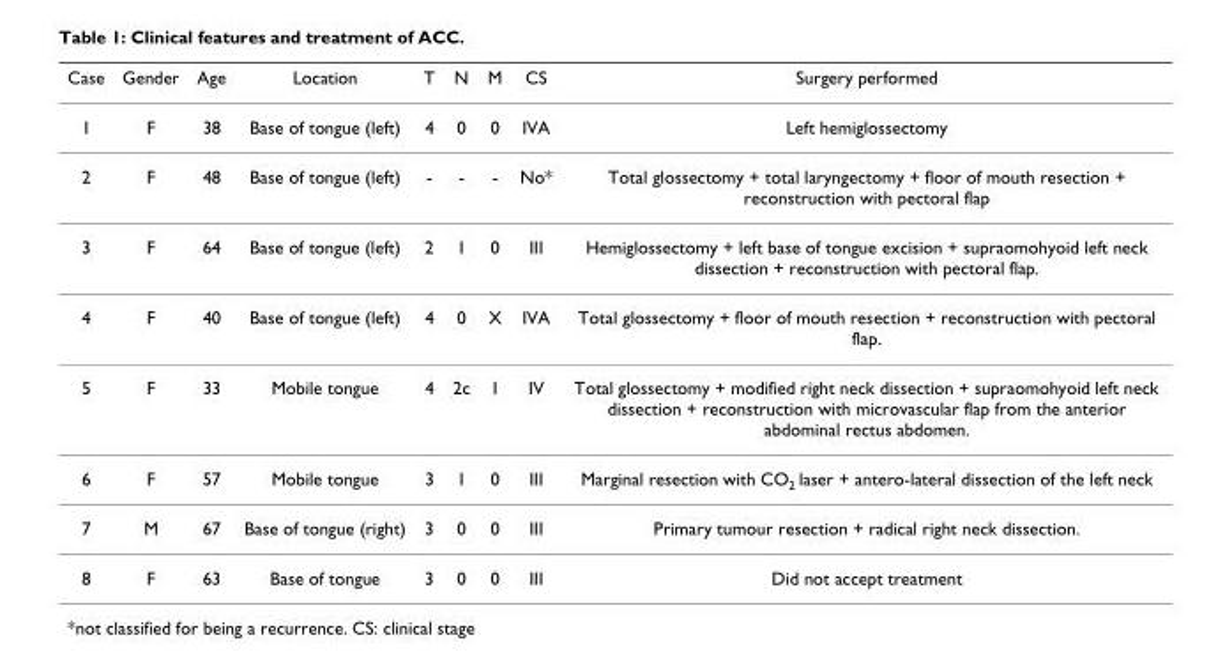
<table><thead><tr><td>Case</td><td>Gender</td><td>Age</td><td>Location</td><td>T</td><td>N</td><td>M</td><td>CS</td><td>Surgery performed</td></tr></thead><tbody><tr><td>1</td><td>F</td><td>38</td><td>Base of tongue (left)</td><td>4</td><td>0</td><td>0</td><td>IVA</td><td>Left hemiglossectomy</td></tr><tr><td>2</td><td>F</td><td>48</td><td>Base of tongue (left)</td><td>-</td><td>-</td><td>-</td><td>No*</td><td>Total glossectomy + total laryngectomy + floor of mouth resection + reconstruction with pectoral flap</td></tr><tr><td>3</td><td>F</td><td>64</td><td>Base of tongue (left)</td><td>2</td><td>1</td><td>0</td><td>III</td><td>Hemiglossectomy + left base of tongue excision + supraomohyoid left neck dissection + reconstruction with pectoral flap.</td></tr><tr><td>4</td><td>F</td><td>40</td><td>Base of tongue (left)</td><td>4</td><td>0</td><td>X</td><td>IVA</td><td>Total glossectomy + floor of mouth resection + reconstruction with pectoral flap.</td></tr><tr><td>5</td><td>F</td><td>33</td><td>Mobile tongue</td><td>4</td><td>2c</td><td>1</td><td>IV</td><td>Total glossectomy + modified right neck dissection + supraomohyoid left neck dissection + reconstruction with microvascular flap from the anterior abdominal rectus abdomen.</td></tr><tr><td>6</td><td>F</td><td>57</td><td>Mobile tongue</td><td>3</td><td>1</td><td>0</td><td>III</td><td>Marginal resection with CO<sub>2</sub> laser + antero-lateral dissection of the left neck</td></tr><tr><td>7</td><td>M</td><td>67</td><td>Base of tongue (right)</td><td>3</td><td>0</td><td>0</td><td>III</td><td>Primary tumour resection + radical right neck dissection.</td></tr><tr><td>8</td><td>F</td><td>63</td><td>Base of tongue</td><td>3</td><td>0</td><td>0</td><td>III</td><td>Did not accept treatment</td></tr></tbody></table>